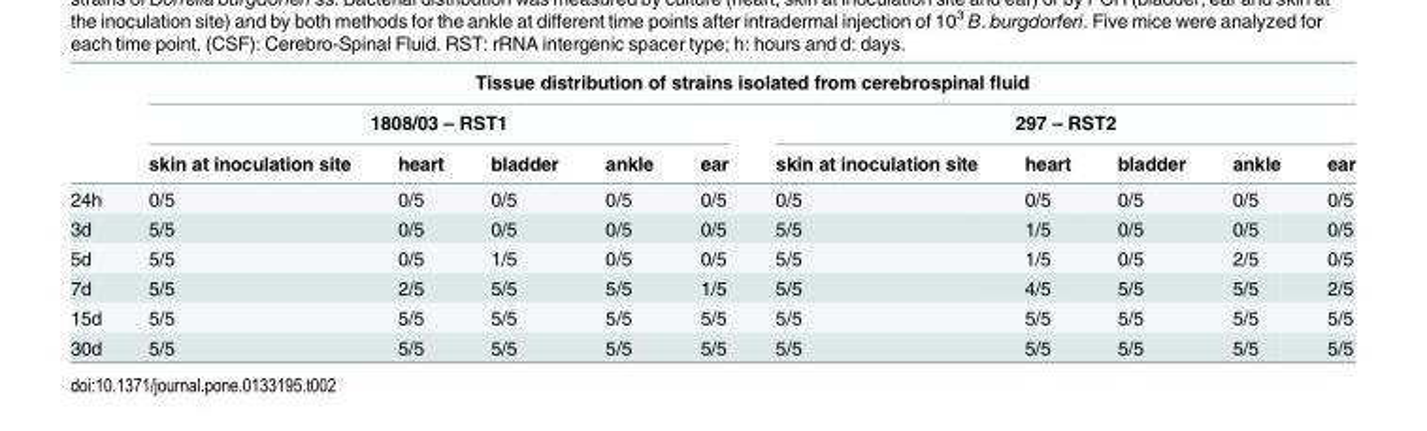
<table><thead><tr><td rowspan="3"></td><td colspan="10">Tissue distribution of strains isolated from cerebrospinal fluid</td></tr><tr><td colspan="5">1808/03 – RST1</td><td colspan="5">297 – RST2</td></tr><tr><td>skin at inoculation site</td><td>heart</td><td>bladder</td><td>ankle</td><td>ear</td><td>skin at inoculation site</td><td>heart</td><td>bladder</td><td>ankle</td><td>ear</td></tr></thead><tbody><tr><td>24h</td><td>0/5</td><td>0/5</td><td>0/5</td><td>0/5</td><td>0/5</td><td>0/5</td><td>0/5</td><td>0/5</td><td>0/5</td><td>0/5</td></tr><tr><td>3d</td><td>5/5</td><td>0/5</td><td>0/5</td><td>0/5</td><td>0/5</td><td>5/5</td><td>1/5</td><td>0/5</td><td>0/5</td><td>0/5</td></tr><tr><td>5d</td><td>5/5</td><td>0/5</td><td>1/5</td><td>0/5</td><td>0/5</td><td>5/5</td><td>1/5</td><td>0/5</td><td>2/5</td><td>0/5</td></tr><tr><td>7d</td><td>5/5</td><td>2/5</td><td>5/5</td><td>5/5</td><td>1/5</td><td>5/5</td><td>4/5</td><td>5/5</td><td>5/5</td><td>2/5</td></tr><tr><td>15d</td><td>5/5</td><td>5/5</td><td>5/5</td><td>5/5</td><td>5/5</td><td>5/5</td><td>5/5</td><td>5/5</td><td>5/5</td><td>5/5</td></tr><tr><td>30d</td><td>5/5</td><td>5/5</td><td>5/5</td><td>5/5</td><td>5/5</td><td>5/5</td><td>5/5</td><td>5/5</td><td>5/5</td><td>5/5</td></tr></tbody></table>